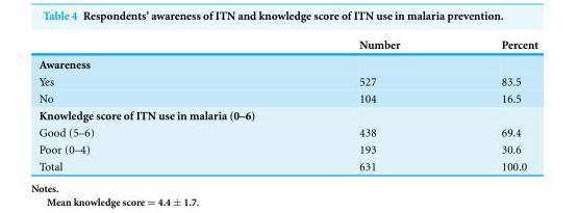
<table><thead><tr><td></td><td>Number</td><td>Percent</td></tr></thead><tbody><tr><td colspan="3">Awareness</td></tr><tr><td>Yes</td><td>527</td><td>83.5</td></tr><tr><td>No</td><td>104</td><td>16.5</td></tr><tr><td colspan="3">Knowledge score of ITN use in malaria (0–6)</td></tr><tr><td>Good (5–6)</td><td>438</td><td>69.4</td></tr><tr><td>Poor (0–4)</td><td>193</td><td>30.6</td></tr><tr><td>Total</td><td>631</td><td>100.0</td></tr></tbody></table>